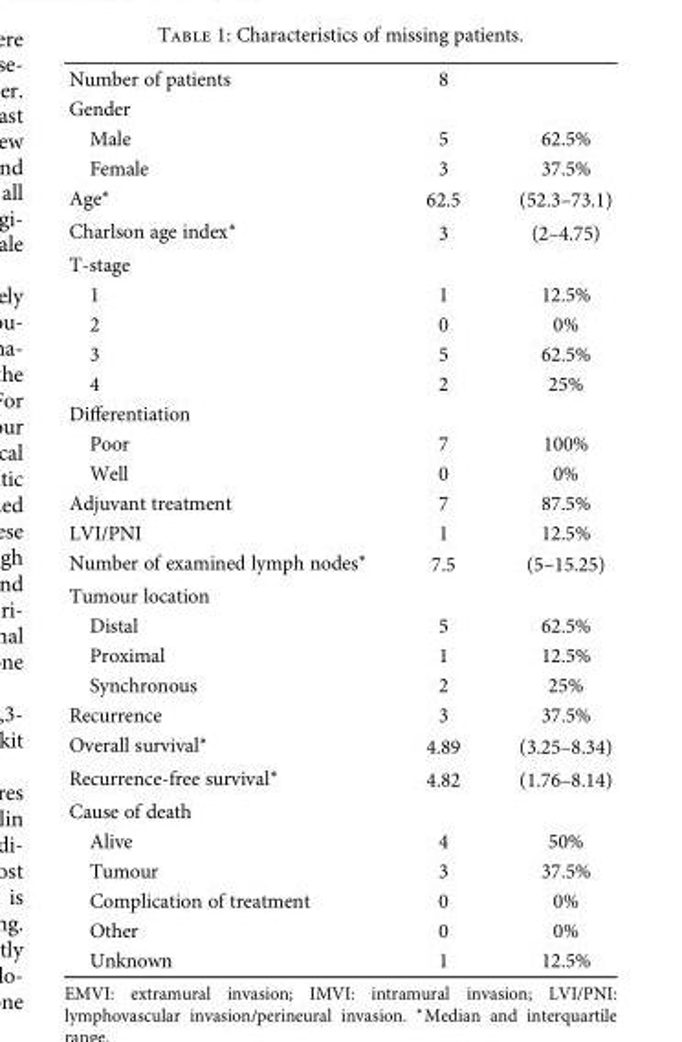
<table><tbody><tr><td>Number of patients</td><td>8</td><td></td></tr><tr><td colspan="3">Gender</td></tr><tr><td>Male</td><td>5</td><td>62.5%</td></tr><tr><td>Female</td><td>3</td><td>37.5%</td></tr><tr><td>Age∗</td><td>62.5</td><td>(52.3–73.1)</td></tr><tr><td>Charlson age index∗</td><td>3</td><td>(2–4.75)</td></tr><tr><td colspan="3">T-stage</td></tr><tr><td>1</td><td>1</td><td>12.5%</td></tr><tr><td>2</td><td>0</td><td>0%</td></tr><tr><td>3</td><td>5</td><td>62.5%</td></tr><tr><td>4</td><td>2</td><td>25%</td></tr><tr><td colspan="3">Differentiation</td></tr><tr><td>Poor</td><td>7</td><td>100%</td></tr><tr><td>Well</td><td>0</td><td>0%</td></tr><tr><td>Adjuvant treatment</td><td>7</td><td>87.5%</td></tr><tr><td>LVI/PNI</td><td>1</td><td>12.5%</td></tr><tr><td>Number of examined lymph nodes∗</td><td>7.5</td><td>(5–15.25)</td></tr><tr><td colspan="3">Tumour location</td></tr><tr><td>Distal</td><td>5</td><td>62.5%</td></tr><tr><td>Proximal</td><td>1</td><td>12.5%</td></tr><tr><td>Synchronous</td><td>2</td><td>25%</td></tr><tr><td>Recurrence</td><td>3</td><td>37.5%</td></tr><tr><td>Overall survival∗</td><td>4.89</td><td>(3.25–8.34)</td></tr><tr><td>Recurrence-free survival∗</td><td>4.82</td><td>(1.76–8.14)</td></tr><tr><td colspan="3">Cause of death</td></tr><tr><td>Alive</td><td>4</td><td>50%</td></tr><tr><td>Tumour</td><td>3</td><td>37.5%</td></tr><tr><td>Complication of treatment</td><td>0</td><td>0%</td></tr><tr><td>Other</td><td>0</td><td>0%</td></tr><tr><td>Unknown</td><td>1</td><td>12.5%</td></tr></tbody></table>